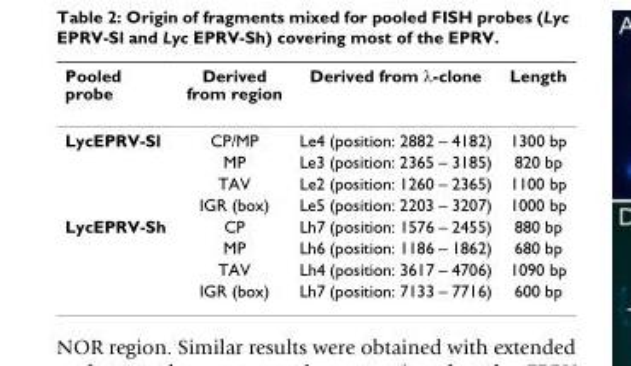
<table><thead><tr><td>Pooled probe</td><td>Derived from region</td><td>Derived from λ-clone</td><td>Length</td></tr></thead><tbody><tr><td rowspan="4">LycEPRV-Sl</td><td>CP/MP</td><td>Le4 (position: 2882 – 4182)</td><td>1300 bp</td></tr><tr><td>MP</td><td>Le3 (position: 2365 – 3185)</td><td>820 bp</td></tr><tr><td>TAV</td><td>Le2 (position: 1260 – 2365)</td><td>1100 bp</td></tr><tr><td>IGR (box)</td><td>Le5 (position: 2203 – 3207)</td><td>1000 bp</td></tr><tr><td rowspan="4">LycEPRV-Sh</td><td>CP</td><td>Lh7 (position: 1576 – 2455)</td><td>880 bp</td></tr><tr><td>MP</td><td>Lh6 (position: 1186 – 1862)</td><td>680 bp</td></tr><tr><td>TAV</td><td>Lh4 (position: 3617 – 4706)</td><td>1090 bp</td></tr><tr><td>IGR (box)</td><td>Lh7 (position: 7133 – 7716)</td><td>600 bp</td></tr></tbody></table>